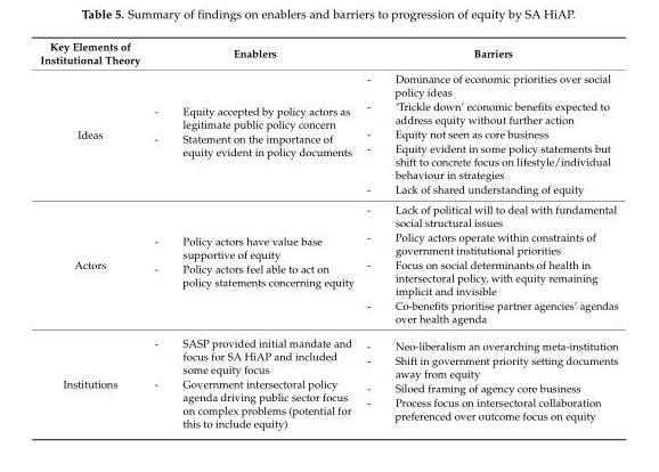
<table><thead><tr><td>Key Elements of Institutional Theory</td><td>Enablers</td><td>Barriers</td></tr></thead><tbody><tr><td>Ideas</td><td>- Equity accepted by policy actors as legitimate public policy concern - Statement on the importance of equity evident in policy documents</td><td>- Dominance of economic priorities over social policy ideas - ‘Trickle down’ economic benefits expected to address equity without further action - Equity not seen as core business - Equity evident in some policy statements but shift to concrete focus on lifestyle/individual behaviour in strategies - Lack of shared understanding of equity</td></tr><tr><td>Actors</td><td>- Policy actors have value base supportive of equity - Policy actors feel able to act on policy statements concerning equity</td><td>- Lack of political will to deal with fundamental social structural issues - Policy actors operate within constraints of government institutional priorities - Focus on social determinants of health in intersectoral policy, with equity remaining implicit and invisible - Co-benefits prioritise partner agencies’ agendas over health agenda</td></tr><tr><td>Institutions</td><td>- SASP provided initial mandate and focus for SA HiAP and included some equity focus - Government intersectoral policy agenda driving public sector focus on complex problems (potential for this to include equity)</td><td>- Neo-liberalism an overarching meta-institution - Shift in government priority setting documents away from equity - Siloed framing of agency core business - Process focus on intersectoral collaboration preferenced over outcome focus on equity</td></tr></tbody></table>